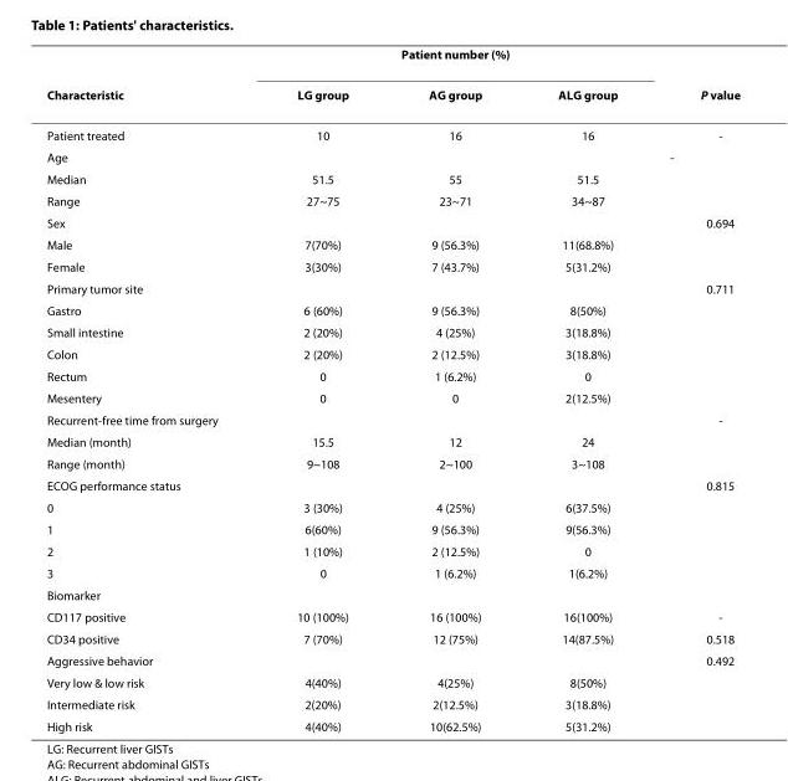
<table><thead><tr><td rowspan="2">Characteristic</td><td colspan="3">Patient number (%)</td><td rowspan="2">P value</td></tr><tr><td>LG group</td><td>AG group</td><td>ALG group</td></tr></thead><tbody><tr><td>Patient treated</td><td>10</td><td>16</td><td>16</td><td>-</td></tr><tr><td>Age</td><td></td><td></td><td></td><td>-</td></tr><tr><td>Median</td><td>51.5</td><td>55</td><td>51.5</td><td></td></tr><tr><td>Range</td><td>27~75</td><td>23~71</td><td>34~87</td><td></td></tr><tr><td>Sex</td><td></td><td></td><td></td><td>0.694</td></tr><tr><td>Male</td><td>7(70%)</td><td>9 (56.3%)</td><td>11(68.8%)</td><td></td></tr><tr><td>Female</td><td>3(30%)</td><td>7 (43.7%)</td><td>5(31.2%)</td><td></td></tr><tr><td>Primary tumor site</td><td></td><td></td><td></td><td>0.711</td></tr><tr><td>Gastro</td><td>6 (60%)</td><td>9 (56.3%)</td><td>8(50%)</td><td></td></tr><tr><td>Small intestine</td><td>2 (20%)</td><td>4 (25%)</td><td>3(18.8%)</td><td></td></tr><tr><td>Colon</td><td>2 (20%)</td><td>2 (12.5%)</td><td>3(18.8%)</td><td></td></tr><tr><td>Rectum</td><td>0</td><td>1 (6.2%)</td><td>0</td><td></td></tr><tr><td>Mesentery</td><td>0</td><td>0</td><td>2(12.5%)</td><td></td></tr><tr><td>Recurrent-free time from surgery</td><td></td><td></td><td></td><td>-</td></tr><tr><td>Median (month)</td><td>15.5</td><td>12</td><td>24</td><td></td></tr><tr><td>Range (month)</td><td>9~108</td><td>2~100</td><td>3~108</td><td></td></tr><tr><td>ECOG performance status</td><td></td><td></td><td></td><td>0.815</td></tr><tr><td>0</td><td>3 (30%)</td><td>4 (25%)</td><td>6(37.5%)</td><td></td></tr><tr><td>1</td><td>6(60%)</td><td>9 (56.3%)</td><td>9(56.3%)</td><td></td></tr><tr><td>2</td><td>1 (10%)</td><td>2 (12.5%)</td><td>0</td><td></td></tr><tr><td>3</td><td>0</td><td>1 (6.2%)</td><td>1(6.2%)</td><td></td></tr><tr><td colspan="5">Biomarker</td></tr><tr><td>CD117 positive</td><td>10 (100%)</td><td>16 (100%)</td><td>16(100%)</td><td>-</td></tr><tr><td>CD34 positive</td><td>7 (70%)</td><td>12 (75%)</td><td>14(87.5%)</td><td>0.518</td></tr><tr><td>Aggressive behavior</td><td></td><td></td><td></td><td>0.492</td></tr><tr><td>Very low &amp; low risk</td><td>4(40%)</td><td>4(25%)</td><td>8(50%)</td><td></td></tr><tr><td>Intermediate risk</td><td>2(20%)</td><td>2(12.5%)</td><td>3(18.8%)</td><td></td></tr><tr><td>High risk</td><td>4(40%)</td><td>10(62.5%)</td><td>5(31.2%)</td><td></td></tr></tbody></table>